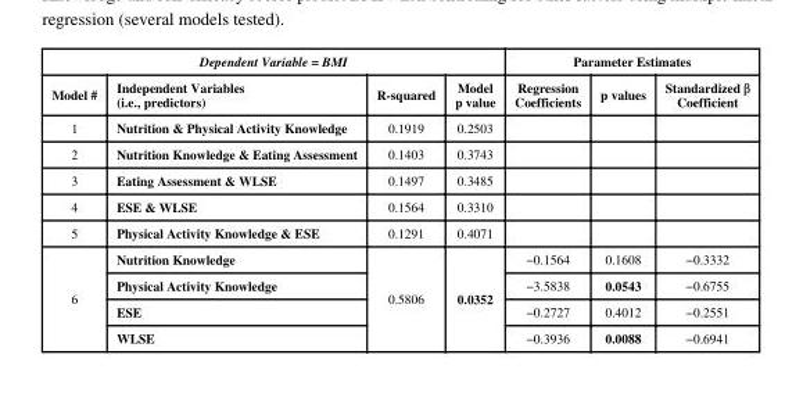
<table><thead><tr><td colspan="4">Dependent Variable = BMI</td><td colspan="3">Parameter Estimates</td></tr><tr><td>Model #</td><td>Independent Variables (i.e., predictors)</td><td>R-squared</td><td>Model p value</td><td>Regression Coefficients</td><td>p values</td><td>Standardized β Coefficient</td></tr></thead><tbody><tr><td>1</td><td>Nutrition &amp; Physical Activity Knowledge</td><td>0.1919</td><td>0.2503</td><td></td><td></td><td></td></tr><tr><td>2</td><td>Nutrition Knowledge &amp; Eating Assessment</td><td>0.1403</td><td>0.3743</td><td></td><td></td><td></td></tr><tr><td>3</td><td>Eating Assessment &amp; WLSE</td><td>0.1497</td><td>0.3485</td><td></td><td></td><td></td></tr><tr><td>4</td><td>ESE &amp; WLSE</td><td>0.1564</td><td>0.3310</td><td></td><td></td><td></td></tr><tr><td>5</td><td>Physical Activity Knowledge &amp; ESE</td><td>0.1291</td><td>0.4071</td><td></td><td></td><td></td></tr><tr><td rowspan="4">6</td><td>Nutrition Knowledge</td><td rowspan="4">0.5806</td><td rowspan="4">0.0352</td><td>−0.1564</td><td>0.1608</td><td>−0.3332</td></tr><tr><td>Physical Activity Knowledge</td><td>−3.5838</td><td>0.0543</td><td>−0.6755</td></tr><tr><td>ESE</td><td>−0.2727</td><td>0.4012</td><td>−0.2551</td></tr><tr><td>WLSE</td><td>−0.3936</td><td>0.0088</td><td>−0.6941</td></tr></tbody></table>